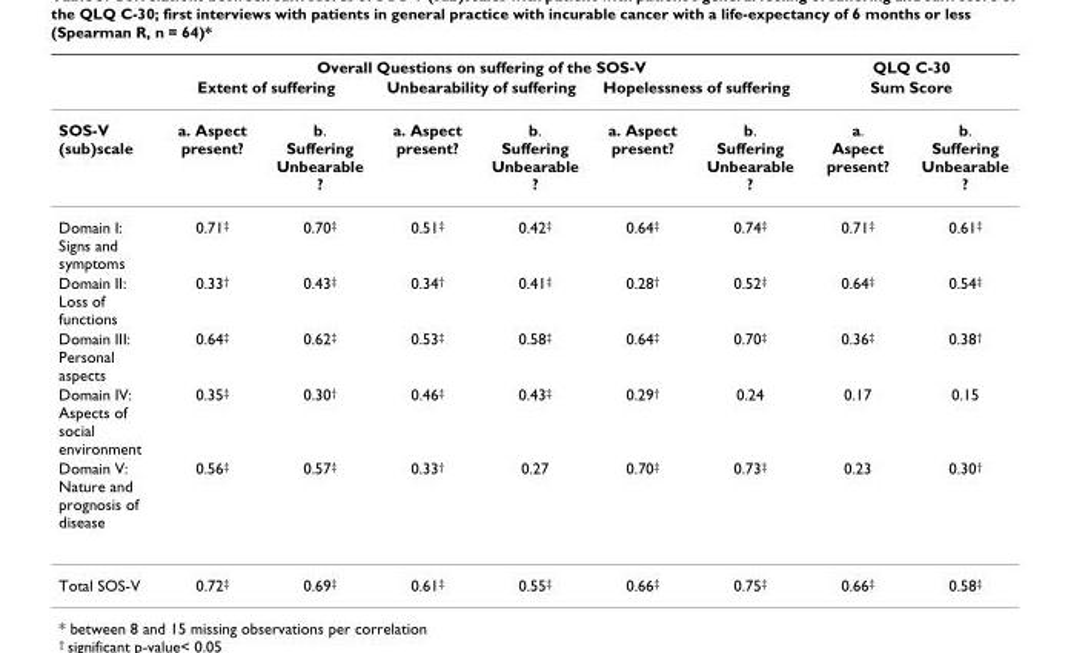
<table><thead><tr><td rowspan="3">SOS-V (sub)scale</td><td colspan="6">Overall Questions on suffering of the SOS-V</td><td rowspan="2" colspan="2">QLQ C-30 Sum Score</td></tr><tr><td colspan="2">Extent of suffering</td><td colspan="2">Unbearability of suffering</td><td colspan="2">Hopelessness of suffering</td></tr><tr><td>a. Aspect present?</td><td>b. Suffering Unbearable ?</td><td>a. Aspect present?</td><td>b. Suffering Unbearable ?</td><td>a. Aspect present?</td><td>b. Suffering Unbearable ?</td><td>a. Aspect present?</td><td>b. Suffering Unbearable ?</td></tr></thead><tbody><tr><td>Domain I: Signs and symptoms</td><td>0.71<sup>‡</sup></td><td>0.70<sup>‡</sup></td><td>0.51<sup>‡</sup></td><td>0.42<sup>‡</sup></td><td>0.64<sup>‡</sup></td><td>0.74<sup>‡</sup></td><td>0.71<sup>‡</sup></td><td>0.61<sup>‡</sup></td></tr><tr><td>Domain II: Loss of functions</td><td>0.33<sup>†</sup></td><td>0.43<sup>‡</sup></td><td>0.34<sup>†</sup></td><td>0.41<sup>‡</sup></td><td>0.28<sup>†</sup></td><td>0.52<sup>‡</sup></td><td>0.64<sup>‡</sup></td><td>0.54<sup>‡</sup></td></tr><tr><td>Domain III: Personal aspects</td><td>0.64<sup>‡</sup></td><td>0.62<sup>‡</sup></td><td>0.53<sup>‡</sup></td><td>0.58<sup>‡</sup></td><td>0.64<sup>‡</sup></td><td>0.70<sup>‡</sup></td><td>0.36<sup>‡</sup></td><td>0.38<sup>†</sup></td></tr><tr><td>Domain IV: Aspects of social environment</td><td>0.35<sup>‡</sup></td><td>0.30<sup>†</sup></td><td>0.46<sup>‡</sup></td><td>0.43<sup>‡</sup></td><td>0.29<sup>†</sup></td><td>0.24</td><td>0.17</td><td>0.15</td></tr><tr><td>Domain V: Nature and prognosis of disease</td><td>0.56<sup>‡</sup></td><td>0.57<sup>‡</sup></td><td>0.33<sup>†</sup></td><td>0.27</td><td>0.70<sup>‡</sup></td><td>0.73<sup>‡</sup></td><td>0.23</td><td>0.30<sup>†</sup></td></tr><tr><td>Total SOS-V</td><td>0.72<sup>‡</sup></td><td>0.69<sup>‡</sup></td><td>0.61<sup>‡</sup></td><td>0.55<sup>‡</sup></td><td>0.66<sup>‡</sup></td><td>0.75<sup>‡</sup></td><td>0.66<sup>‡</sup></td><td>0.58<sup>‡</sup></td></tr></tbody></table>